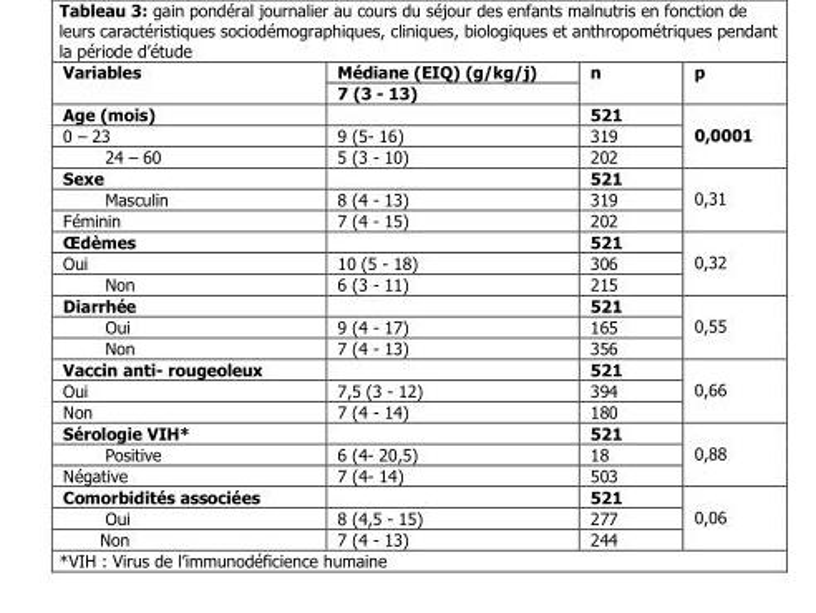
<table><thead><tr><td rowspan="2">Variables</td><td rowspan="2">Médiane (EIQ) (g/kg/j) 7 (3 - 13)</td><td rowspan="2">n</td><td rowspan="2">p</td></tr><tr></tr></thead><tbody><tr><td>Age (mois)</td><td></td><td>521</td><td rowspan="3">0,0001</td></tr><tr><td>0 Ŕ 23</td><td>9 (5- 16)</td><td>319</td></tr><tr><td>24 Ŕ 60</td><td>5 (3 - 10)</td><td>202</td></tr><tr><td>Sexe</td><td></td><td>521</td><td rowspan="3">0,31</td></tr><tr><td>Masculin</td><td>8 (4 - 13)</td><td>319</td></tr><tr><td>Féminin</td><td>7 (4 - 15)</td><td>202</td></tr><tr><td>Œdèmes</td><td></td><td>521</td><td rowspan="3">0,32</td></tr><tr><td>Oui</td><td>10 (5 - 18)</td><td>306</td></tr><tr><td>Non</td><td>6 (3 - 11)</td><td>215</td></tr><tr><td>Diarrhée</td><td></td><td>521</td><td rowspan="3">0,55</td></tr><tr><td>Oui</td><td>9 (4 - 17)</td><td>165</td></tr><tr><td>Non</td><td>7 (4 - 13)</td><td>356</td></tr><tr><td>Vaccin anti- rougeoleux</td><td></td><td>521</td><td rowspan="3">0,66</td></tr><tr><td>Oui</td><td>7,5 (3 - 12)</td><td>394</td></tr><tr><td>Non</td><td>7 (4 - 14)</td><td>180</td></tr><tr><td>Sérologie VIH*</td><td></td><td>521</td><td rowspan="3">0,88</td></tr><tr><td>Positive</td><td>6 (4- 20,5)</td><td>18</td></tr><tr><td>Négative</td><td>7 (4- 14)</td><td>503</td></tr><tr><td>Comorbidités associées</td><td></td><td>521</td><td rowspan="3">0,06</td></tr><tr><td>Oui</td><td>8 (4,5 - 15)</td><td>277</td></tr><tr><td>Non</td><td>7 (4 - 13)</td><td>244</td></tr></tbody></table>